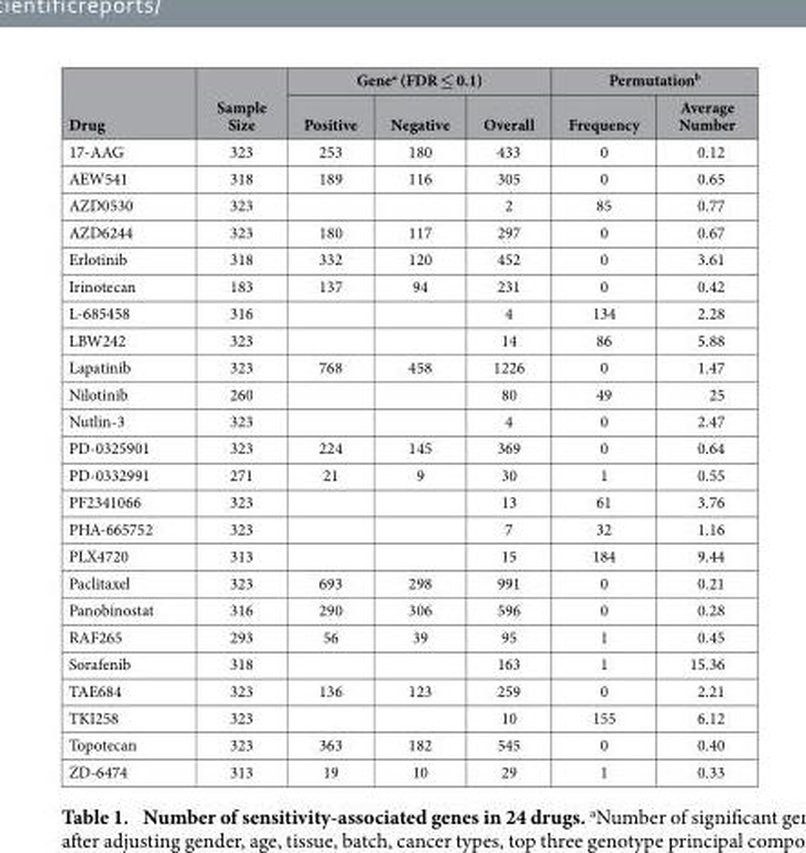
<table><thead><tr><td rowspan="2">Drug</td><td rowspan="2">Sample Size</td><td colspan="3">Gene<sup>a</sup> (FDR ≤ 0.1)</td><td colspan="2">Permutation<sup>b</sup></td></tr><tr><td>Positive</td><td>Negative</td><td>Overall</td><td>Frequency</td><td>Average Number</td></tr></thead><tbody><tr><td>17-AAG</td><td>323</td><td>253</td><td>180</td><td>433</td><td>0</td><td>0.12</td></tr><tr><td>AEW541</td><td>318</td><td>189</td><td>116</td><td>305</td><td>0</td><td>0.65</td></tr><tr><td>AZD0530</td><td>323</td><td></td><td></td><td>2</td><td>85</td><td>0.77</td></tr><tr><td>AZD6244</td><td>323</td><td>180</td><td>117</td><td>297</td><td>0</td><td>0.67</td></tr><tr><td>Erlotinib</td><td>318</td><td>332</td><td>120</td><td>452</td><td>0</td><td>3.61</td></tr><tr><td>Irinotecan</td><td>183</td><td>137</td><td>94</td><td>231</td><td>0</td><td>0.42</td></tr><tr><td>L-685458</td><td>316</td><td></td><td></td><td>4</td><td>134</td><td>2.28</td></tr><tr><td>LBW242</td><td>323</td><td></td><td></td><td>14</td><td>86</td><td>5.88</td></tr><tr><td>Lapatinib</td><td>323</td><td>768</td><td>458</td><td>1226</td><td>0</td><td>1.47</td></tr><tr><td>Nilotinib</td><td>260</td><td></td><td></td><td>80</td><td>49</td><td>25</td></tr><tr><td>Nutlin-3</td><td>323</td><td></td><td></td><td>4</td><td>0</td><td>2.47</td></tr><tr><td>PD-0325901</td><td>323</td><td>224</td><td>145</td><td>369</td><td>0</td><td>0.64</td></tr><tr><td>PD-0332991</td><td>271</td><td>21</td><td>9</td><td>30</td><td>1</td><td>0.55</td></tr><tr><td>PF2341066</td><td>323</td><td></td><td></td><td>13</td><td>61</td><td>3.76</td></tr><tr><td>PHA-665752</td><td>323</td><td></td><td></td><td>7</td><td>32</td><td>1.16</td></tr><tr><td>PLX4720</td><td>313</td><td></td><td></td><td>15</td><td>184</td><td>9.44</td></tr><tr><td>Paclitaxel</td><td>323</td><td>693</td><td>298</td><td>991</td><td>0</td><td>0.21</td></tr><tr><td>Panobinostat</td><td>316</td><td>290</td><td>306</td><td>596</td><td>0</td><td>0.28</td></tr><tr><td>RAF265</td><td>293</td><td>56</td><td>39</td><td>95</td><td>1</td><td>0.45</td></tr><tr><td>Sorafenib</td><td>318</td><td></td><td></td><td>163</td><td>1</td><td>15.36</td></tr><tr><td>TAE684</td><td>323</td><td>136</td><td>123</td><td>259</td><td>0</td><td>2.21</td></tr><tr><td>TKI258</td><td>323</td><td></td><td></td><td>10</td><td>155</td><td>6.12</td></tr><tr><td>Topotecan</td><td>323</td><td>363</td><td>182</td><td>545</td><td>0</td><td>0.40</td></tr><tr><td>ZD-6474</td><td>313</td><td>19</td><td>10</td><td>29</td><td>1</td><td>0.33</td></tr></tbody></table>